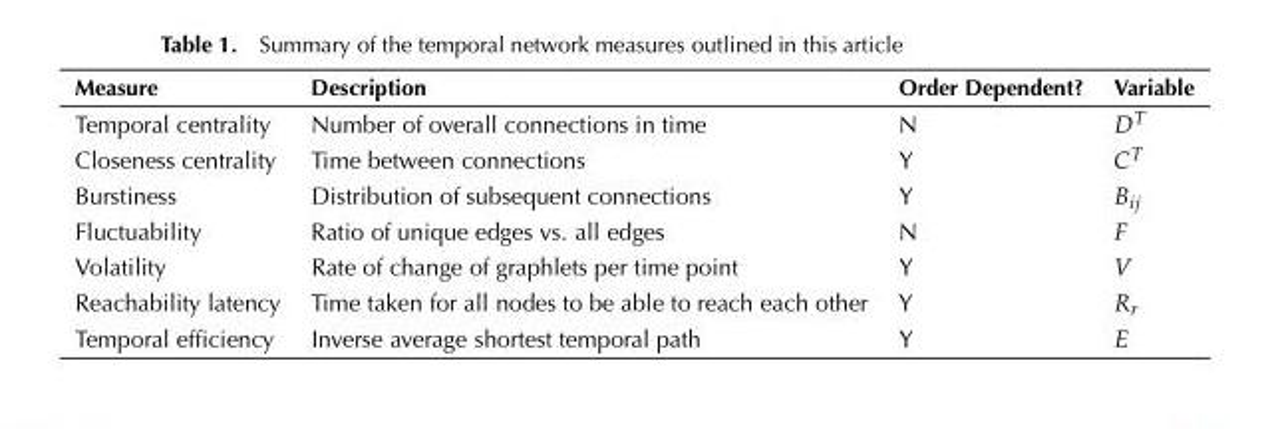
<table><thead><tr><td>Measure</td><td>Description</td><td>Order Dependent?</td><td>Variable</td></tr></thead><tbody><tr><td>Temporal centrality</td><td>Number of overall connections in time</td><td>N</td><td>D<sup>T</sup></td></tr><tr><td>Closeness centrality</td><td>Time between connections</td><td>Y</td><td>C<sup>T</sup></td></tr><tr><td>Burstiness</td><td>Distribution of subsequent connections</td><td>Y</td><td>B<sub>ij</sub></td></tr><tr><td>Fluctuability</td><td>Ratio of unique edges vs. all edges</td><td>N</td><td>F</td></tr><tr><td>Volatility</td><td>Rate of change of graphlets per time point</td><td>Y</td><td>V</td></tr><tr><td>Reachability latency</td><td>Time taken for all nodes to be able to reach each other</td><td>Y</td><td>R<sub>r</sub></td></tr><tr><td>Temporal efficiency</td><td>Inverse average shortest temporal path</td><td>Y</td><td>E</td></tr></tbody></table>